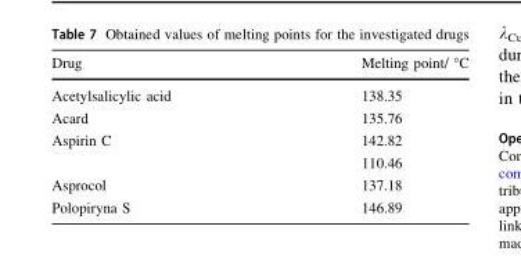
<table><thead><tr><td>Drug</td><td>Melting point/ °C</td></tr></thead><tbody><tr><td>Acetylsalicylic acid</td><td>138.35</td></tr><tr><td>Acard</td><td>135.76</td></tr><tr><td rowspan="2">Aspirin C</td><td>142.82</td></tr><tr><td>110.46</td></tr><tr><td>Asprocol</td><td>137.18</td></tr><tr><td>Polopiryna S</td><td>146.89</td></tr></tbody></table>